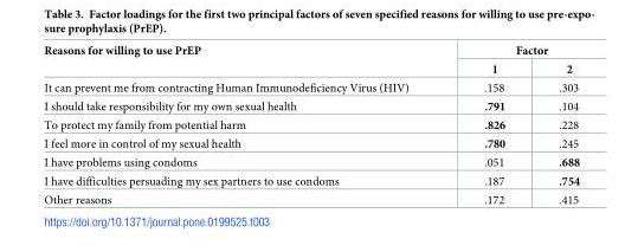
<table><thead><tr><td rowspan="2">Reasons for willing to use PrEP</td><td colspan="2">Factor</td></tr><tr><td>1</td><td>2</td></tr></thead><tbody><tr><td>It can prevent me from contracting Human Immunodeficiency Virus (HIV)</td><td>.158</td><td>.303</td></tr><tr><td>I should take responsibility for my own sexual health</td><td>.791</td><td>.104</td></tr><tr><td>To protect my family from potential harm</td><td>.826</td><td>.228</td></tr><tr><td>I feel more in control of my sexual health</td><td>.780</td><td>.245</td></tr><tr><td>I have problems using condoms</td><td>.051</td><td>.688</td></tr><tr><td>I have difficulties persuading my sex partners to use condoms</td><td>.187</td><td>.754</td></tr><tr><td>Other reasons</td><td>.172</td><td>.415</td></tr></tbody></table>